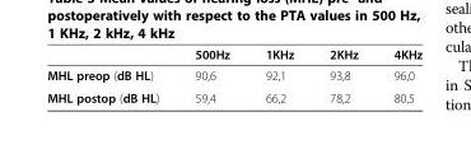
<table><thead><tr><td></td><td>500Hz</td><td>1KHz</td><td>2KHz</td><td>4KHz</td></tr></thead><tbody><tr><td>MHL preop (dB HL)</td><td>90,6</td><td>92,1</td><td>93,8</td><td>96,0</td></tr><tr><td>MHL postop (dB HL)</td><td>59,4</td><td>66,2</td><td>78,2</td><td>80,5</td></tr></tbody></table>